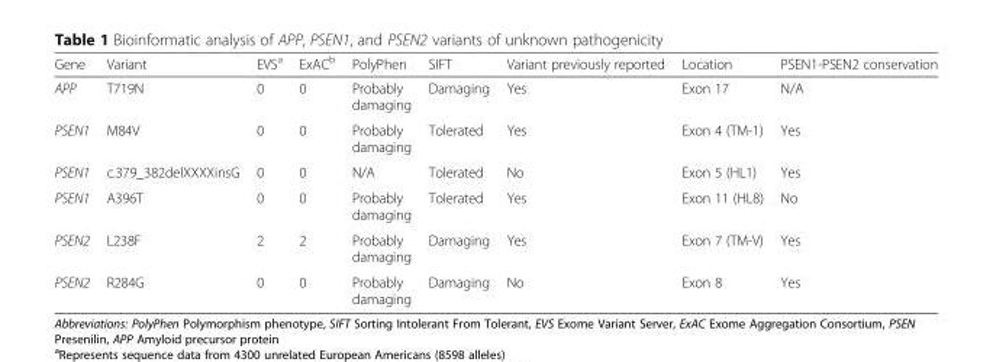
<table><thead><tr><td>Gene</td><td>Variant</td><td>EVS<sup>a</sup></td><td>ExAC<sup>b</sup></td><td>PolyPhen</td><td>SIFT</td><td>Variant previously reported</td><td>Location</td><td>PSEN1-PSEN2 conservation</td></tr></thead><tbody><tr><td>APP</td><td>T719N</td><td>0</td><td>0</td><td>Probably damaging</td><td>Damaging</td><td>Yes</td><td>Exon 17</td><td>N/A</td></tr><tr><td>PSEN1</td><td>M84V</td><td>0</td><td>0</td><td>Probably damaging</td><td>Tolerated</td><td>Yes</td><td>Exon 4 (TM-1)</td><td>Yes</td></tr><tr><td>PSEN1</td><td>c.379_382delXXXXinsG</td><td>0</td><td>0</td><td>N/A</td><td>Tolerated</td><td>No</td><td>Exon 5 (HL1)</td><td>Yes</td></tr><tr><td>PSEN1</td><td>A396T</td><td>0</td><td>0</td><td>Probably damaging</td><td>Tolerated</td><td>Yes</td><td>Exon 11 (HL8)</td><td>No</td></tr><tr><td>PSEN2</td><td>L238F</td><td>2</td><td>2</td><td>Probably damaging</td><td>Damaging</td><td>Yes</td><td>Exon 7 (TM-V)</td><td>Yes</td></tr><tr><td>PSEN2</td><td>R284G</td><td>0</td><td>0</td><td>Probably damaging</td><td>Damaging</td><td>No</td><td>Exon 8</td><td>Yes</td></tr></tbody></table>